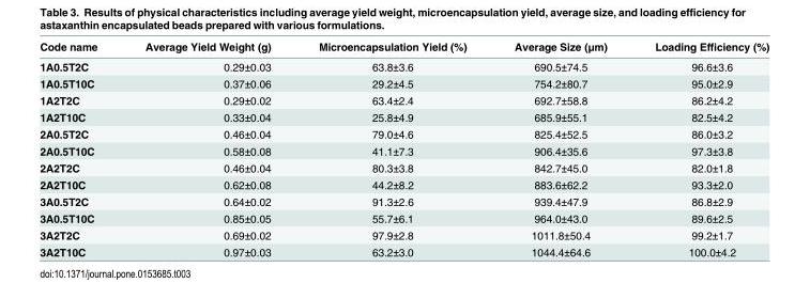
<table><thead><tr><td>Code name</td><td>Average Yield Weight (g)</td><td>Microencapsulation Yield (%)</td><td>Average Size (μm)</td><td>Loading Efficiency (%)</td></tr></thead><tbody><tr><td>1A0.5T2C</td><td>0.29±0.03</td><td>63.8±3.6</td><td>690.5±74.5</td><td>96.6±3.6</td></tr><tr><td>1A0.5T10C</td><td>0.37±0.06</td><td>29.2±4.5</td><td>754.2±80.7</td><td>95.0±2.9</td></tr><tr><td>1A2T2C</td><td>0.29±0.02</td><td>63.4±2.4</td><td>692.7±58.8</td><td>86.2±4.2</td></tr><tr><td>1A2T10C</td><td>0.33±0.04</td><td>25.8±4.9</td><td>685.9±55.1</td><td>82.5±4.2</td></tr><tr><td>2A0.5T2C</td><td>0.46±0.04</td><td>79.0±4.6</td><td>825.4±52.5</td><td>86.0±3.2</td></tr><tr><td>2A0.5T10C</td><td>0.58±0.08</td><td>41.1±7.3</td><td>906.4±35.6</td><td>97.3±3.8</td></tr><tr><td>2A2T2C</td><td>0.46±0.04</td><td>80.3±3.8</td><td>842.7±45.0</td><td>82.0±1.8</td></tr><tr><td>2A2T10C</td><td>0.62±0.08</td><td>44.2±8.2</td><td>883.6±62.2</td><td>93.3±2.0</td></tr><tr><td>3A0.5T2C</td><td>0.64±0.02</td><td>91.3±2.6</td><td>939.4±47.9</td><td>86.8±2.9</td></tr><tr><td>3A0.5T10C</td><td>0.85±0.05</td><td>55.7±6.1</td><td>964.0±43.0</td><td>89.6±2.5</td></tr><tr><td>3A2T2C</td><td>0.69±0.02</td><td>97.9±2.8</td><td>1011.8±50.4</td><td>99.2±1.7</td></tr><tr><td>3A2T10C</td><td>0.97±0.03</td><td>63.2±3.0</td><td>1044.4±64.6</td><td>100.0±4.2</td></tr></tbody></table>